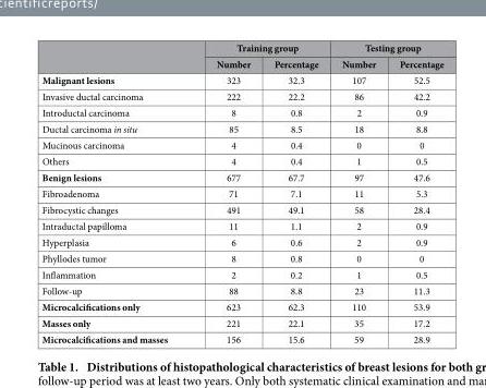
<table><thead><tr><td rowspan="2"></td><td colspan="2">Training group</td><td colspan="2">Testing group</td></tr><tr><td>Number</td><td>Percentage</td><td>Number</td><td>Percentage</td></tr></thead><tbody><tr><td>Malignant lesions</td><td>323</td><td>32.3</td><td>107</td><td>52.5</td></tr><tr><td>Invasive ductal carcinoma</td><td>222</td><td>22.2</td><td>86</td><td>42.2</td></tr><tr><td>Introductal carcinoma</td><td>8</td><td>0.8</td><td>2</td><td>0.9</td></tr><tr><td>Ductal carcinoma in situ</td><td>85</td><td>8.5</td><td>18</td><td>8.8</td></tr><tr><td>Mucinous carcinoma</td><td>4</td><td>0.4</td><td>0</td><td>0</td></tr><tr><td>Others</td><td>4</td><td>0.4</td><td>1</td><td>0.5</td></tr><tr><td>Benign lesions</td><td>677</td><td>67.7</td><td>97</td><td>47.6</td></tr><tr><td>Fibroadenoma</td><td>71</td><td>7.1</td><td>11</td><td>5.3</td></tr><tr><td>Fibrocystic changes</td><td>491</td><td>49.1</td><td>58</td><td>28.4</td></tr><tr><td>Intraductal papilloma</td><td>11</td><td>1.1</td><td>2</td><td>0.9</td></tr><tr><td>Hyperplasia</td><td>6</td><td>0.6</td><td>2</td><td>0.9</td></tr><tr><td>Phyllodes tumor</td><td>8</td><td>0.8</td><td>0</td><td>0</td></tr><tr><td>Inflammation</td><td>2</td><td>0.2</td><td>1</td><td>0.5</td></tr><tr><td>Follow-up</td><td>88</td><td>8.8</td><td>23</td><td>11.3</td></tr><tr><td>Microcalcifications only</td><td>623</td><td>62.3</td><td>110</td><td>53.9</td></tr><tr><td>Masses only</td><td>221</td><td>22.1</td><td>35</td><td>17.2</td></tr><tr><td>Microcalcifications and masses</td><td>156</td><td>15.6</td><td>59</td><td>28.9</td></tr></tbody></table>